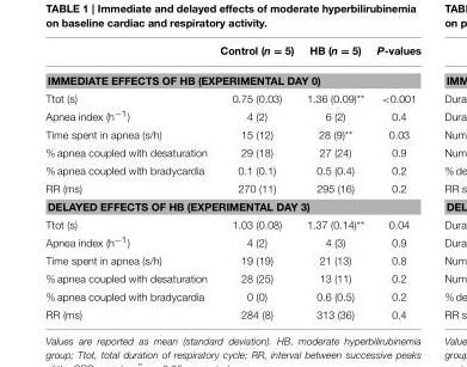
<table><thead><tr><td></td><td>Control (n = 5)</td><td>HB (n = 5)</td><td>P-values</td></tr></thead><tbody><tr><td colspan="4">IMMEDIATE EFFECTS OF HB (EXPERIMENTAL DAY 0)</td></tr><tr><td>Ttot (s)</td><td>0.75 (0.03)</td><td>1.36 (0.09)**</td><td>&lt;0.001</td></tr><tr><td>Apnea index (h<sup>−1</sup>)</td><td>4 (2)</td><td>6 (2)</td><td>0.4</td></tr><tr><td>Time spent in apnea (s/h)</td><td>15 (12)</td><td>28 (9)**</td><td>0.03</td></tr><tr><td>% apnea coupled with desaturation</td><td>29 (18)</td><td>27 (24)</td><td>0.9</td></tr><tr><td>% apnea coupled with bradycardia</td><td>0.1 (0.1)</td><td>0.5 (0.4)</td><td>0.2</td></tr><tr><td>RR (ms)</td><td>270 (11)</td><td>295 (16)</td><td>0.2</td></tr><tr><td colspan="4">DELAYED EFFECTS OF HB (EXPERIMENTAL DAY 3)</td></tr><tr><td>Ttot (s)</td><td>1.03 (0.08)</td><td>1.37 (0.14)**</td><td>0.04</td></tr><tr><td>Apnea index (h<sup>−1</sup>)</td><td>4 (2)</td><td>4 (3)</td><td>0.9</td></tr><tr><td>Time spent in apnea (s/h)</td><td>19 (19)</td><td>21 (13)</td><td>0.8</td></tr><tr><td>% apnea coupled with desaturation</td><td>28 (25)</td><td>13 (11)</td><td>0.2</td></tr><tr><td>% apnea coupled with bradycardia</td><td>0 (0)</td><td>0.6 (0.5)</td><td>0.2</td></tr><tr><td>RR (ms)</td><td>284 (8)</td><td>313 (36)</td><td>0.4</td></tr></tbody></table>